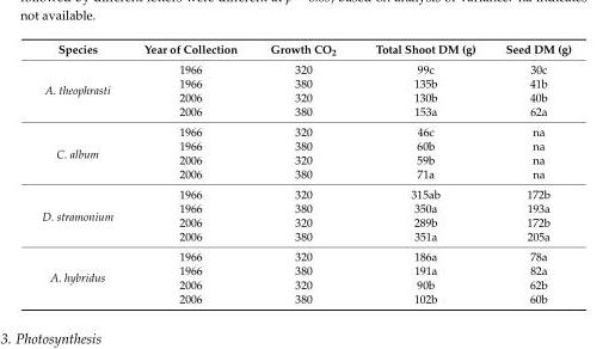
<table><thead><tr><td>Species</td><td>Year of Collection</td><td>Growth CO<sub>2</sub></td><td>Total Shoot DM (g)</td><td>Seed DM (g)</td></tr></thead><tbody><tr><td rowspan="4">A. theophrasti</td><td>1966</td><td>320</td><td>99c</td><td>30c</td></tr><tr><td>1966</td><td>380</td><td>135b</td><td>41b</td></tr><tr><td>2006</td><td>320</td><td>130b</td><td>40b</td></tr><tr><td>2006</td><td>380</td><td>153a</td><td>62a</td></tr><tr><td rowspan="4">C. album</td><td>1966</td><td>320</td><td>46c</td><td>na</td></tr><tr><td>1966</td><td>380</td><td>60b</td><td>na</td></tr><tr><td>2006</td><td>320</td><td>59b</td><td>na</td></tr><tr><td>2006</td><td>380</td><td>71a</td><td>na</td></tr><tr><td rowspan="4">D. stramonium</td><td>1966</td><td>320</td><td>315ab</td><td>172b</td></tr><tr><td>1966</td><td>380</td><td>350a</td><td>193a</td></tr><tr><td>2006</td><td>320</td><td>289b</td><td>172b</td></tr><tr><td>2006</td><td>380</td><td>351a</td><td>205a</td></tr><tr><td rowspan="4">A. hybridus</td><td>1966</td><td>320</td><td>186a</td><td>78a</td></tr><tr><td>1966</td><td>380</td><td>191a</td><td>82a</td></tr><tr><td>2006</td><td>320</td><td>90b</td><td>62b</td></tr><tr><td>2006</td><td>380</td><td>102b</td><td>60b</td></tr></tbody></table>